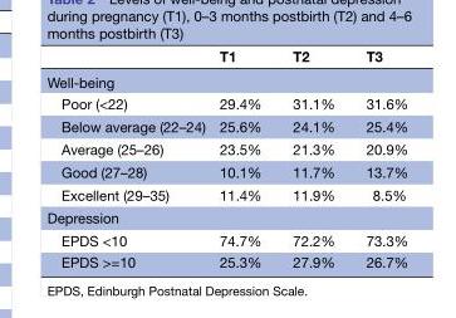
<table><thead><tr><td></td><td>T1</td><td>T2</td><td>T3</td></tr></thead><tbody><tr><td colspan="4">Well-being</td></tr><tr><td>Poor (&lt;22)</td><td>29.4%</td><td>31.1%</td><td>31.6%</td></tr><tr><td>Below average (22–24)</td><td>25.6%</td><td>24.1%</td><td>25.4%</td></tr><tr><td>Average (25–26)</td><td>23.5%</td><td>21.3%</td><td>20.9%</td></tr><tr><td>Good (27–28)</td><td>10.1%</td><td>11.7%</td><td>13.7%</td></tr><tr><td>Excellent (29–35)</td><td>11.4%</td><td>11.9%</td><td>8.5%</td></tr><tr><td colspan="4">Depression</td></tr><tr><td>EPDS &lt;10</td><td>74.7%</td><td>72.2%</td><td>73.3%</td></tr><tr><td>EPDS &gt;=10</td><td>25.3%</td><td>27.9%</td><td>26.7%</td></tr></tbody></table>